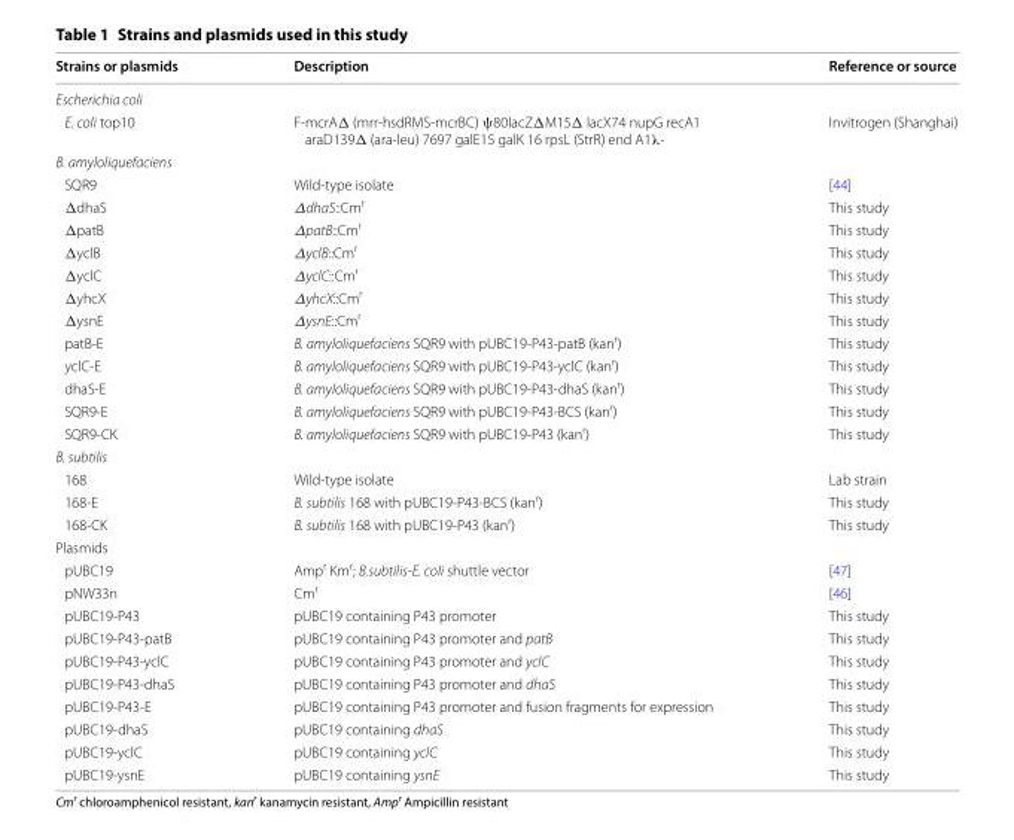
<table><thead><tr><td>Strains or plasmids</td><td>Description</td><td>Reference or source</td></tr></thead><tbody><tr><td colspan="3">Escherichia coli</td></tr><tr><td>E. coli top10</td><td>F-mcrAΔ (mrr-hsdRMS-mcrBC) ψ80lacZΔM15Δ lacX74 nupG recA1 araD139Δ (ara-leu) 7697 galE15 galK 16 rpsL (StrR) end A1λ-</td><td>Invitrogen (Shanghai)</td></tr><tr><td colspan="3">B. amyloliquefaciens</td></tr><tr><td>SQR9</td><td>Wild-type isolate</td><td>[44]</td></tr><tr><td>ΔdhaS</td><td>ΔdhaS::Cm<sup>r</sup></td><td>This study</td></tr><tr><td>ΔpatB</td><td>ΔpatB::Cm<sup>r</sup></td><td>This study</td></tr><tr><td>ΔyclB</td><td>ΔyclB::Cm<sup>r</sup></td><td>This study</td></tr><tr><td>ΔyclC</td><td>ΔyclC::Cm<sup>r</sup></td><td>This study</td></tr><tr><td>ΔyhcX</td><td>ΔyhcX::Cm<sup>r</sup></td><td>This study</td></tr><tr><td>ΔysnE</td><td>ΔysnE::Cm<sup>r</sup></td><td>This study</td></tr><tr><td>patB-E</td><td>B. amyloliquefaciens SQR9 with pUBC19-P43-patB (kan<sup>r</sup>)</td><td>This study</td></tr><tr><td>yclC-E</td><td>B. amyloliquefaciens SQR9 with pUBC19-P43-yclC (kan<sup>r</sup>)</td><td>This study</td></tr><tr><td>dhaS-E</td><td>B. amyloliquefaciens SQR9 with pUBC19-P43-dhaS (kan<sup>r</sup>)</td><td>This study</td></tr><tr><td>SQR9-E</td><td>B. amyloliquefaciens SQR9 with pUBC19-P43-BCS (kan<sup>r</sup>)</td><td>This study</td></tr><tr><td>SQR9-CK</td><td>B. amyloliquefaciens SQR9 with pUBC19-P43 (kan<sup>r</sup>)</td><td>This study</td></tr><tr><td colspan="3">B. subtilis</td></tr><tr><td>168</td><td>Wild-type isolate</td><td>Lab strain</td></tr><tr><td>168-E</td><td>B. subtilis 168 with pUBC19-P43-BCS (kan<sup>r</sup>)</td><td>This study</td></tr><tr><td>168-CK</td><td>B. subtilis 168 with pUBC19-P43 (kan<sup>r</sup>)</td><td>This study</td></tr><tr><td colspan="3">Plasmids</td></tr><tr><td>pUBC19</td><td>Amp<sup>r</sup> Km<sup>r</sup>; B.subtilis-E. coli shuttle vector</td><td>[47]</td></tr><tr><td>pNW33n</td><td>Cm<sup>r</sup></td><td>[46]</td></tr><tr><td>pUBC19-P43</td><td>pUBC19 containing P43 promoter</td><td>This study</td></tr><tr><td>pUBC19-P43-patB</td><td>pUBC19 containing P43 promoter and patB</td><td>This study</td></tr><tr><td>pUBC19-P43-yclC</td><td>pUBC19 containing P43 promoter and yclC</td><td>This study</td></tr><tr><td>pUBC19-P43-dhaS</td><td>pUBC19 containing P43 promoter and dhaS</td><td>This study</td></tr><tr><td>pUBC19-P43-E</td><td>pUBC19 containing P43 promoter and fusion fragments for expression</td><td>This study</td></tr><tr><td>pUBC19-dhaS</td><td>pUBC19 containing dhaS</td><td>This study</td></tr><tr><td>pUBC19-yclC</td><td>pUBC19 containing yclC</td><td>This study</td></tr><tr><td>pUBC19-ysnE</td><td>pUBC19 containing ysnE</td><td>This study</td></tr></tbody></table>